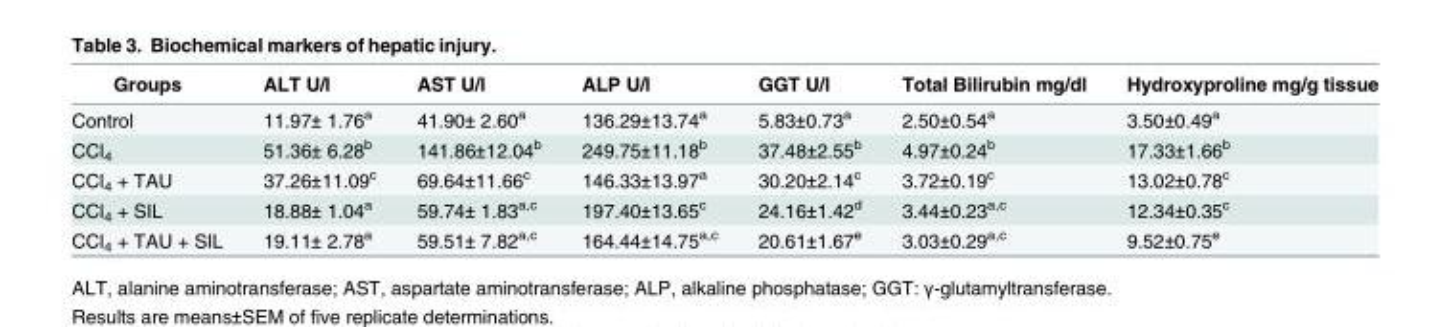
<table><thead><tr><td>Groups</td><td>ALT U/l</td><td>AST U/l</td><td>ALP U/l</td><td>GGT U/l</td><td>Total Bilirubin mg/dl</td><td>Hydroxyproline mg/g tissue</td></tr></thead><tbody><tr><td>Control</td><td>11.97± 1.76<sup>a</sup></td><td>41.90± 2.60<sup>a</sup></td><td>136.29±13.74<sup>a</sup></td><td>5.83±0.73<sup>a</sup></td><td>2.50±0.54<sup>a</sup></td><td>3.50±0.49<sup>a</sup></td></tr><tr><td>CCl<sub>4</sub></td><td>51.36± 6.28<sup>b</sup></td><td>141.86±12.04<sup>b</sup></td><td>249.75±11.18<sup>b</sup></td><td>37.48±2.55<sup>b</sup></td><td>4.97±0.24<sup>b</sup></td><td>17.33±1.66<sup>b</sup></td></tr><tr><td>CCl<sub>4</sub> + TAU</td><td>37.26±11.09<sup>c</sup></td><td>69.64±11.66<sup>c</sup></td><td>146.33±13.97<sup>a</sup></td><td>30.20±2.14<sup>c</sup></td><td>3.72±0.19<sup>c</sup></td><td>13.02±0.78<sup>c</sup></td></tr><tr><td>CCl<sub>4</sub> + SIL</td><td>18.88± 1.04<sup>a</sup></td><td>59.74± 1.83<sup>a,c</sup></td><td>197.40±13.65<sup>c</sup></td><td>24.16±1.42<sup>d</sup></td><td>3.44±0.23<sup>a,c</sup></td><td>12.34±0.35<sup>c</sup></td></tr><tr><td>CCl<sub>4</sub> + TAU + SIL</td><td>19.11± 2.78<sup>a</sup></td><td>59.51± 7.82<sup>a,c</sup></td><td>164.44±14.75<sup>a,c</sup></td><td>20.61±1.67<sup>e</sup></td><td>3.03±0.29<sup>a,c</sup></td><td>9.52±0.75<sup>e</sup></td></tr></tbody></table>